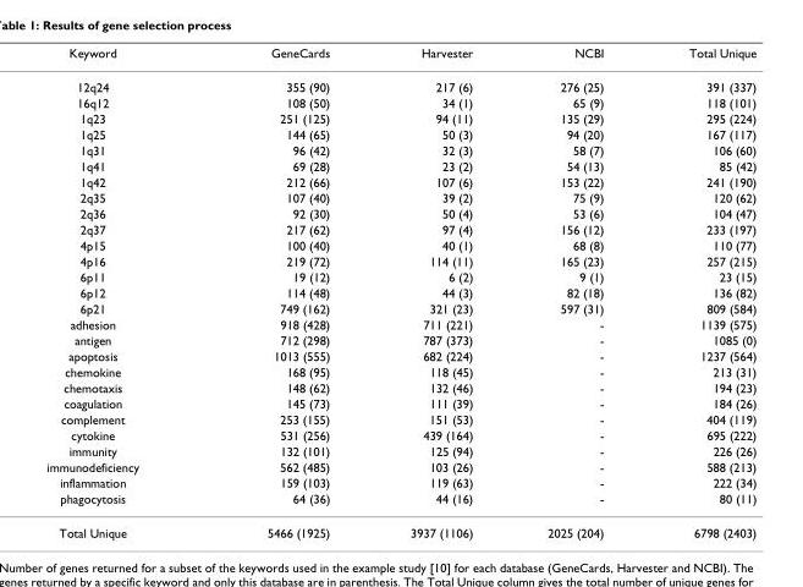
<table><thead><tr><td>Keyword</td><td>GeneCards</td><td>Harvester</td><td>NCBI</td><td>Total Unique</td></tr></thead><tbody><tr><td>12q24</td><td>355 (90)</td><td>217 (6)</td><td>276 (25)</td><td>391 (337)</td></tr><tr><td>16q12</td><td>108 (50)</td><td>34 (1)</td><td>65 (9)</td><td>118 (101)</td></tr><tr><td>1q23</td><td>251 (125)</td><td>94 (11)</td><td>135 (29)</td><td>295 (224)</td></tr><tr><td>1q25</td><td>144 (65)</td><td>50 (3)</td><td>94 (20)</td><td>167 (117)</td></tr><tr><td>1q31</td><td>96 (42)</td><td>32 (3)</td><td>58 (7)</td><td>106 (60)</td></tr><tr><td>1q41</td><td>69 (28)</td><td>23 (2)</td><td>54 (13)</td><td>85 (42)</td></tr><tr><td>1q42</td><td>212 (66)</td><td>107 (6)</td><td>153 (22)</td><td>241 (190)</td></tr><tr><td>2q35</td><td>107 (40)</td><td>39 (2)</td><td>75 (9)</td><td>120 (62)</td></tr><tr><td>2q36</td><td>92 (30)</td><td>50 (4)</td><td>53 (6)</td><td>104 (47)</td></tr><tr><td>2q37</td><td>217 (62)</td><td>97 (4)</td><td>156 (12)</td><td>233 (197)</td></tr><tr><td>4p15</td><td>100 (40)</td><td>40 (1)</td><td>68 (8)</td><td>110 (77)</td></tr><tr><td>4p16</td><td>219 (72)</td><td>114 (11)</td><td>165 (23)</td><td>257 (215)</td></tr><tr><td>6p11</td><td>19 (12)</td><td>6 (2)</td><td>9 (1)</td><td>23 (15)</td></tr><tr><td>6p12</td><td>114 (48)</td><td>44 (3)</td><td>82 (18)</td><td>136 (82)</td></tr><tr><td>6p21</td><td>749 (162)</td><td>321 (23)</td><td>597 (31)</td><td>809 (584)</td></tr><tr><td>adhesion</td><td>918 (428)</td><td>711 (221)</td><td>-</td><td>1139 (575)</td></tr><tr><td>antigen</td><td>712 (298)</td><td>787 (373)</td><td>-</td><td>1085 (0)</td></tr><tr><td>apoptosis</td><td>1013 (555)</td><td>682 (224)</td><td>-</td><td>1237 (564)</td></tr><tr><td>chemokine</td><td>168 (95)</td><td>118 (45)</td><td>-</td><td>213 (31)</td></tr><tr><td>chemotaxis</td><td>148 (62)</td><td>132 (46)</td><td>-</td><td>194 (23)</td></tr><tr><td>coagulation</td><td>145 (73)</td><td>111 (39)</td><td>-</td><td>184 (26)</td></tr><tr><td>complement</td><td>253 (155)</td><td>151 (53)</td><td>-</td><td>404 (119)</td></tr><tr><td>cytokine</td><td>531 (256)</td><td>439 (164)</td><td>-</td><td>695 (222)</td></tr><tr><td>immunity</td><td>132 (101)</td><td>125 (94)</td><td>-</td><td>226 (26)</td></tr><tr><td>immunodeficiency</td><td>562 (485)</td><td>103 (26)</td><td>-</td><td>588 (213)</td></tr><tr><td>inflammation</td><td>159 (103)</td><td>119 (63)</td><td>-</td><td>222 (34)</td></tr><tr><td>phagocytosis</td><td>64 (36)</td><td>44 (16)</td><td>-</td><td>80 (11)</td></tr><tr><td>Total Unique</td><td>5466 (1925)</td><td>3937 (1106)</td><td>2025 (204)</td><td>6798 (2403)</td></tr></tbody></table>